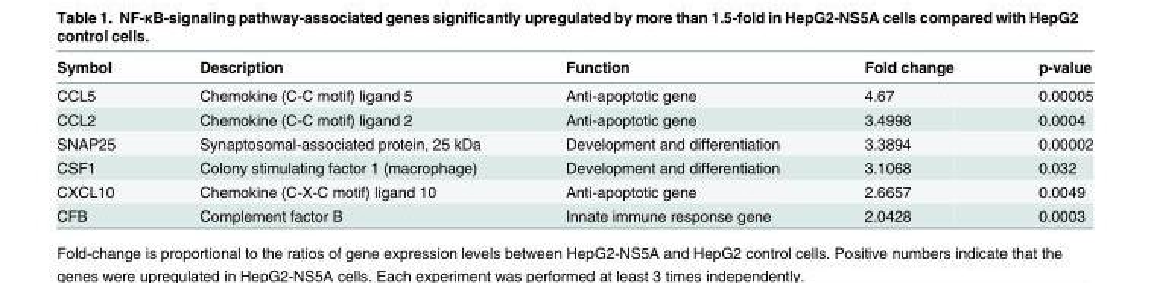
<table><thead><tr><td>Symbol</td><td>Description</td><td>Function</td><td>Fold change</td><td>p-value</td></tr></thead><tbody><tr><td>CCL5</td><td>Chemokine (C-C motif) ligand 5</td><td>Anti-apoptotic gene</td><td>4.67</td><td>0.00005</td></tr><tr><td>CCL2</td><td>Chemokine (C-C motif) ligand 2</td><td>Anti-apoptotic gene</td><td>3.4998</td><td>0.0004</td></tr><tr><td>SNAP25</td><td>Synaptosomal-associated protein, 25 kDa</td><td>Development and differentiation</td><td>3.3894</td><td>0.00002</td></tr><tr><td>CSF1</td><td>Colony stimulating factor 1 (macrophage)</td><td>Development and differentiation</td><td>3.1068</td><td>0.032</td></tr><tr><td>CXCL10</td><td>Chemokine (C-X-C motif) ligand 10</td><td>Anti-apoptotic gene</td><td>2.6657</td><td>0.0049</td></tr><tr><td>CFB</td><td>Complement factor B</td><td>Innate immune response gene</td><td>2.0428</td><td>0.0003</td></tr></tbody></table>